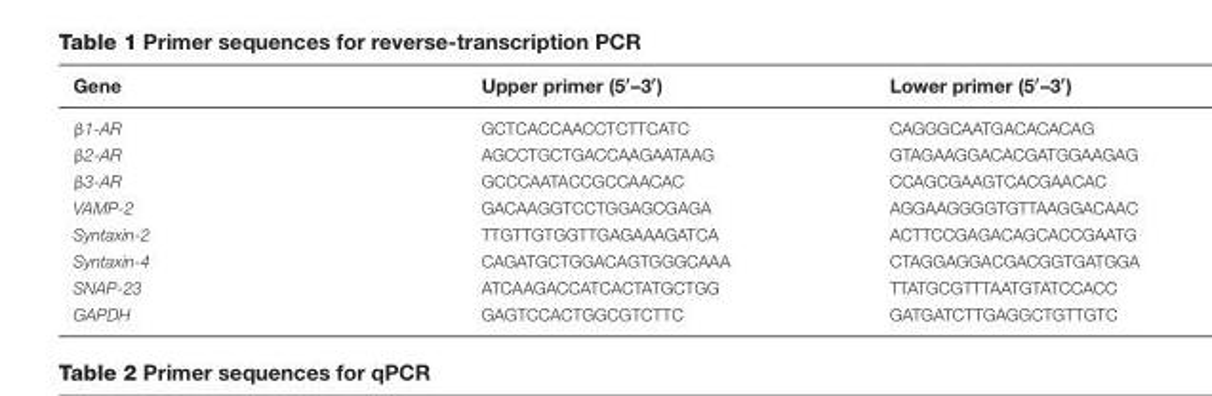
<table><thead><tr><td>Gene</td><td>Upper primer (5′–3′)</td><td>Lower primer (5′–3′)</td></tr></thead><tbody><tr><td>β1-AR</td><td>GCTCACCAACCTCTTCATC</td><td>CAGGGCAATGACACACAG</td></tr><tr><td>β2-AR</td><td>AGCCTGCTGACCAAGAATAAG</td><td>GTAGAAGGACACGATGGAAGAG</td></tr><tr><td>β3-AR</td><td>GCCCAATACCGCCAACAC</td><td>CCAGCGAAGTCACGAACAC</td></tr><tr><td>VAMP-2</td><td>GACAAGGTCCTGGAGCGAGA</td><td>AGGAAGGGGTGTTAAGGACAAC</td></tr><tr><td>Syntaxin-2</td><td>TTGTTGTGGTTGAGAAAGATCA</td><td>ACTTCCGAGACAGCACCGAATG</td></tr><tr><td>Syntaxin-4</td><td>CAGATGCTGGACAGTGGGCAAA</td><td>CTAGGAGGACGACGGTGATGGA</td></tr><tr><td>SNAP-23</td><td>ATCAAGACCATCACTATGCTGG</td><td>TTATGCGTTTAATGTATCCACC</td></tr><tr><td>GAPDH</td><td>GAGTCCACTGGCGTCTTC</td><td>GATGATCTTGAGGCTGTTGTC</td></tr></tbody></table>